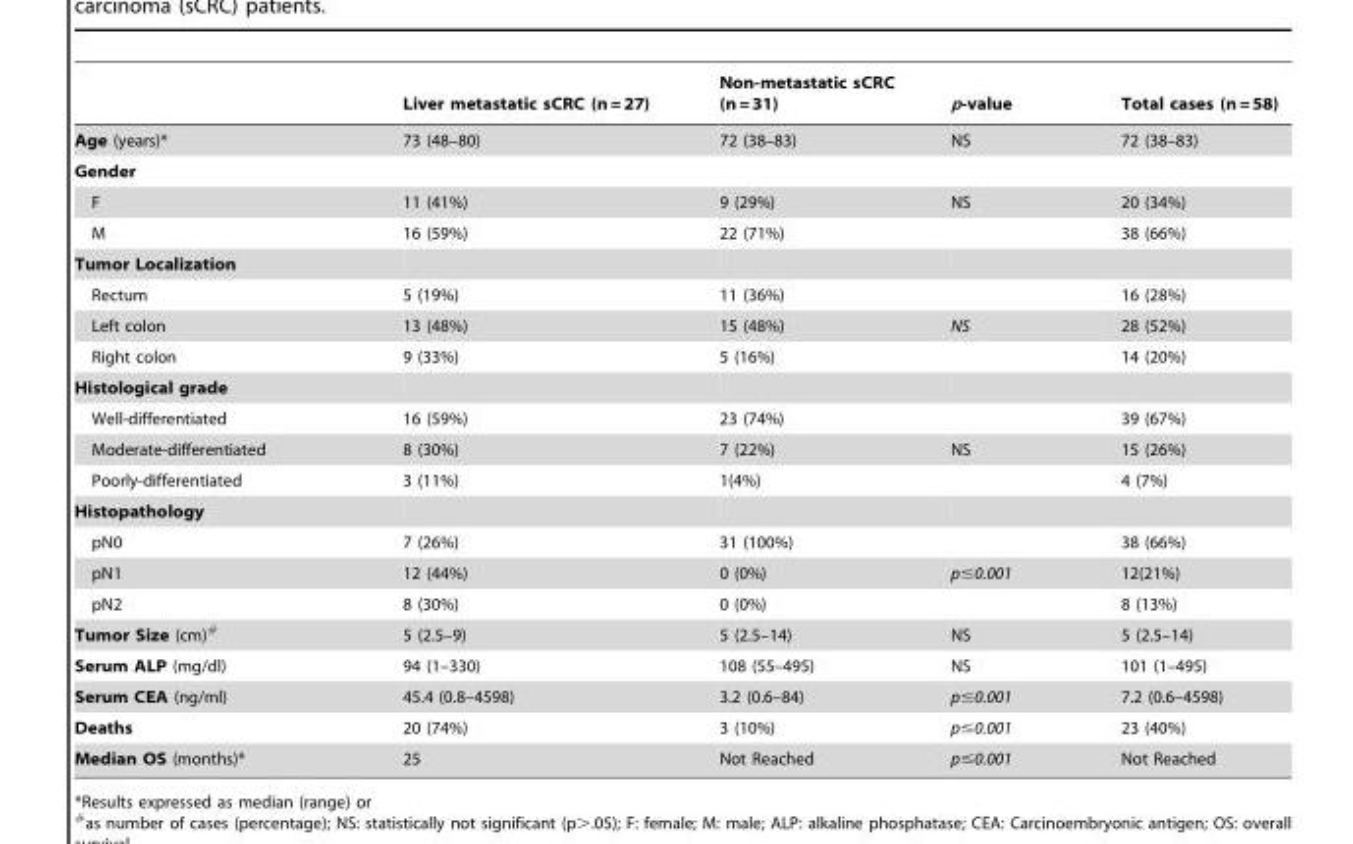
<table><thead><tr><td></td><td>Liver metastatic sCRC (n = 27)</td><td>Non-metastatic sCRC (n = 31)</td><td>p-value</td><td>Total cases (n = 58)</td></tr></thead><tbody><tr><td>Age (years)*</td><td>73 (48–80)</td><td>72 (38–83)</td><td>NS</td><td>72 (38–83)</td></tr><tr><td colspan="5">Gender</td></tr><tr><td>F</td><td>11 (41%)</td><td>9 (29%)</td><td>NS</td><td>20 (34%)</td></tr><tr><td>M</td><td>16 (59%)</td><td>22 (71%)</td><td></td><td>38 (66%)</td></tr><tr><td colspan="5">Tumor Localization</td></tr><tr><td>Rectum</td><td>5 (19%)</td><td>11 (36%)</td><td></td><td>16 (28%)</td></tr><tr><td>Left colon</td><td>13 (48%)</td><td>15 (48%)</td><td>NS</td><td>28 (52%)</td></tr><tr><td>Right colon</td><td>9 (33%)</td><td>5 (16%)</td><td></td><td>14 (20%)</td></tr><tr><td colspan="5">Histological grade</td></tr><tr><td>Well-differentiated</td><td>16 (59%)</td><td>23 (74%)</td><td></td><td>39 (67%)</td></tr><tr><td>Moderate-differentiated</td><td>8 (30%)</td><td>7 (22%)</td><td>NS</td><td>15 (26%)</td></tr><tr><td>Poorly-differentiated</td><td>3 (11%)</td><td>1(4%)</td><td></td><td>4 (7%)</td></tr><tr><td colspan="5">Histopathology</td></tr><tr><td>pN0</td><td>7 (26%)</td><td>31 (100%)</td><td></td><td>38 (66%)</td></tr><tr><td>pN1</td><td>12 (44%)</td><td>0 (0%)</td><td>p≤0.001</td><td>12(21%)</td></tr><tr><td>pN2</td><td>8 (30%)</td><td>0 (0%)</td><td></td><td>8 (13%)</td></tr><tr><td>Tumor Size (cm)#</td><td>5 (2.5–9)</td><td>5 (2.5–14)</td><td>NS</td><td>5 (2.5–14)</td></tr><tr><td>Serum ALP (mg/dl)</td><td>94 (1–330)</td><td>108 (55–495)</td><td>NS</td><td>101 (1–495)</td></tr><tr><td>Serum CEA (ng/ml)</td><td>45.4 (0.8–4598)</td><td>3.2 (0.6–84)</td><td>p≤0.001</td><td>7.2 (0.6–4598)</td></tr><tr><td>Deaths</td><td>20 (74%)</td><td>3 (10%)</td><td>p≤0.001</td><td>23 (40%)</td></tr><tr><td>Median OS (months)*</td><td>25</td><td>Not Reached</td><td>p≤0.001</td><td>Not Reached</td></tr></tbody></table>